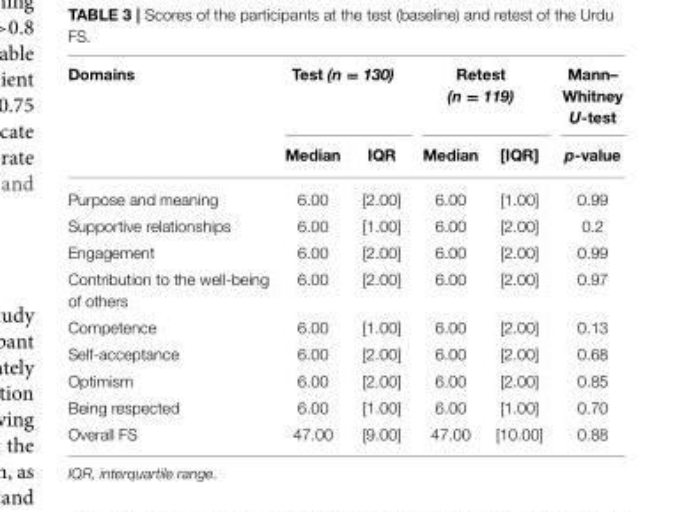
<table><thead><tr><td rowspan="2">Domains</td><td colspan="2">Test (n = 130)</td><td colspan="2">Retest (n = 119)</td><td rowspan="2">Mann– Whitney U-test p-value</td></tr><tr><td>Median</td><td>IQR</td><td>Median</td><td>[IQR]</td></tr></thead><tbody><tr><td>Purpose and meaning</td><td>6.00</td><td>[2.00]</td><td>6.00</td><td>[1.00]</td><td>0.99</td></tr><tr><td>Supportive relationships</td><td>6.00</td><td>[1.00]</td><td>6.00</td><td>[2.00]</td><td>0.2</td></tr><tr><td>Engagement</td><td>6.00</td><td>[2.00]</td><td>6.00</td><td>[2.00]</td><td>0.99</td></tr><tr><td>Contribution to the well-being of others</td><td>6.00</td><td>[2.00]</td><td>6.00</td><td>[2.00]</td><td>0.97</td></tr><tr><td>Competence</td><td>6.00</td><td>[1.00]</td><td>6.00</td><td>[2.00]</td><td>0.13</td></tr><tr><td>Self-acceptance</td><td>6.00</td><td>[2.00]</td><td>6.00</td><td>[2.00]</td><td>0.68</td></tr><tr><td>Optimism</td><td>6.00</td><td>[2.00]</td><td>6.00</td><td>[2.00]</td><td>0.85</td></tr><tr><td>Being respected</td><td>6.00</td><td>[1.00]</td><td>6.00</td><td>[1.00]</td><td>0.70</td></tr><tr><td>Overall FS</td><td>47.00</td><td>[9.00]</td><td>47.00</td><td>[10.00]</td><td>0.88</td></tr></tbody></table>